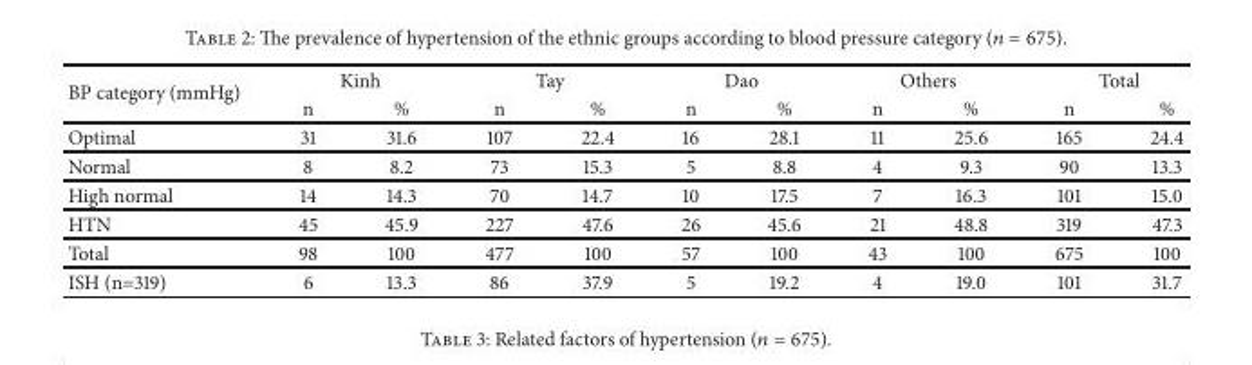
<table><thead><tr><td rowspan="2">BP category (mmHg)</td><td colspan="2">Kinh</td><td colspan="2">Tay</td><td colspan="2">Dao</td><td colspan="2">Others</td><td colspan="2">Total</td></tr><tr><td>n</td><td>%</td><td>n</td><td>%</td><td>n</td><td>%</td><td>n</td><td>%</td><td>n</td><td>%</td></tr></thead><tbody><tr><td>Optimal</td><td>31</td><td>31.6</td><td>107</td><td>22.4</td><td>16</td><td>28.1</td><td>11</td><td>25.6</td><td>165</td><td>24.4</td></tr><tr><td>Normal</td><td>8</td><td>8.2</td><td>73</td><td>15.3</td><td>5</td><td>8.8</td><td>4</td><td>9.3</td><td>90</td><td>13.3</td></tr><tr><td>High normal</td><td>14</td><td>14.3</td><td>70</td><td>14.7</td><td>10</td><td>17.5</td><td>7</td><td>16.3</td><td>101</td><td>15.0</td></tr><tr><td>HTN</td><td>45</td><td>45.9</td><td>227</td><td>47.6</td><td>26</td><td>45.6</td><td>21</td><td>48.8</td><td>319</td><td>47.3</td></tr><tr><td>Total</td><td>98</td><td>100</td><td>477</td><td>100</td><td>57</td><td>100</td><td>43</td><td>100</td><td>675</td><td>100</td></tr><tr><td>ISH (n=319)</td><td>6</td><td>13.3</td><td>86</td><td>37.9</td><td>5</td><td>19.2</td><td>4</td><td>19.0</td><td>101</td><td>31.7</td></tr></tbody></table>